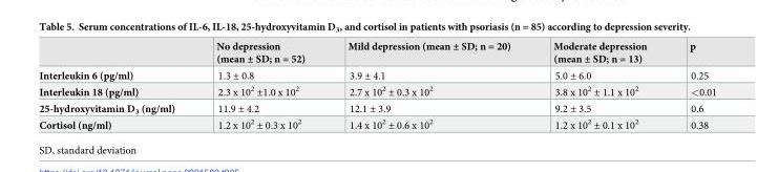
<table><thead><tr><td></td><td>No depression (mean ± SD; n = 52)</td><td>Mild depression (mean ± SD; n = 20)</td><td>Moderate depression (mean ± SD; n = 13)</td><td>p</td></tr></thead><tbody><tr><td>Interleukin 6 (pg/ml)</td><td>1.3 ± 0.8</td><td>3.9 ± 4.1</td><td>5.0 ± 6.0</td><td>0.25</td></tr><tr><td>Interleukin 18 (pg/ml)</td><td>2.3 x 10<sup>2</sup> ±1.0 x 10<sup>2</sup></td><td>2.7 x 10<sup>2</sup> ± 0.3 x 10<sup>2</sup></td><td>3.8 x 10<sup>2</sup> ± 1.1 x 10<sup>2</sup></td><td>&lt;0.01</td></tr><tr><td>25-hydroxyvitamin D<sub>3</sub> (ng/ml)</td><td>11.9 ± 4.2</td><td>12.1 ± 3.9</td><td>9.2 ± 3.5</td><td>0.6</td></tr><tr><td>Cortisol (ng/ml)</td><td>1.2 x 10<sup>2</sup> ± 0.3 x 10<sup>2</sup></td><td>1.4 x 10<sup>2</sup> ± 0.6 x 10<sup>2</sup></td><td>1.2 x 10<sup>2</sup> ± 0.1 x 10<sup>2</sup></td><td>0.38</td></tr></tbody></table>